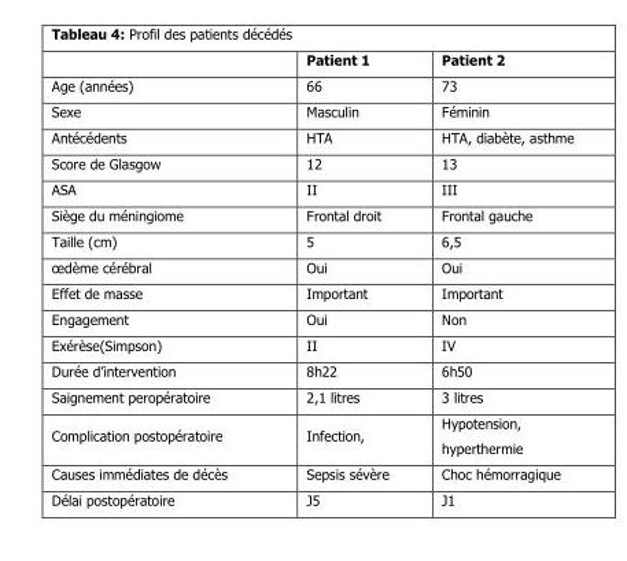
<table><thead><tr><td></td><td>Patient 1</td><td>Patient 2</td></tr></thead><tbody><tr><td>Age (années)</td><td>66</td><td>73</td></tr><tr><td>Sexe</td><td>Masculin</td><td>Féminin</td></tr><tr><td>Antécédents</td><td>HTA</td><td>HTA, diabète, asthme</td></tr><tr><td>Score de Glasgow</td><td>12</td><td>13</td></tr><tr><td>ASA</td><td>II</td><td>III</td></tr><tr><td>Siège du méningiome</td><td>Frontal droit</td><td>Frontal gauche</td></tr><tr><td>Taille (cm)</td><td>5</td><td>6,5</td></tr><tr><td>œdème cérébral</td><td>Oui</td><td>Oui</td></tr><tr><td>Effet de masse</td><td>Important</td><td>Important</td></tr><tr><td>Engagement</td><td>Oui</td><td>Non</td></tr><tr><td>Exérèse(Simpson)</td><td>II</td><td>IV</td></tr><tr><td>Durée d’intervention</td><td>8h22</td><td>6h50</td></tr><tr><td>Saignement peropératoire</td><td>2,1 litres</td><td>3 litres</td></tr><tr><td>Complication postopératoire</td><td>Infection,</td><td>Hypotension, hyperthermie</td></tr><tr><td>Causes immédiates de décès</td><td>Sepsis sévère</td><td>Choc hémorragique</td></tr><tr><td>Délai postopératoire</td><td>J5</td><td>J1</td></tr></tbody></table>